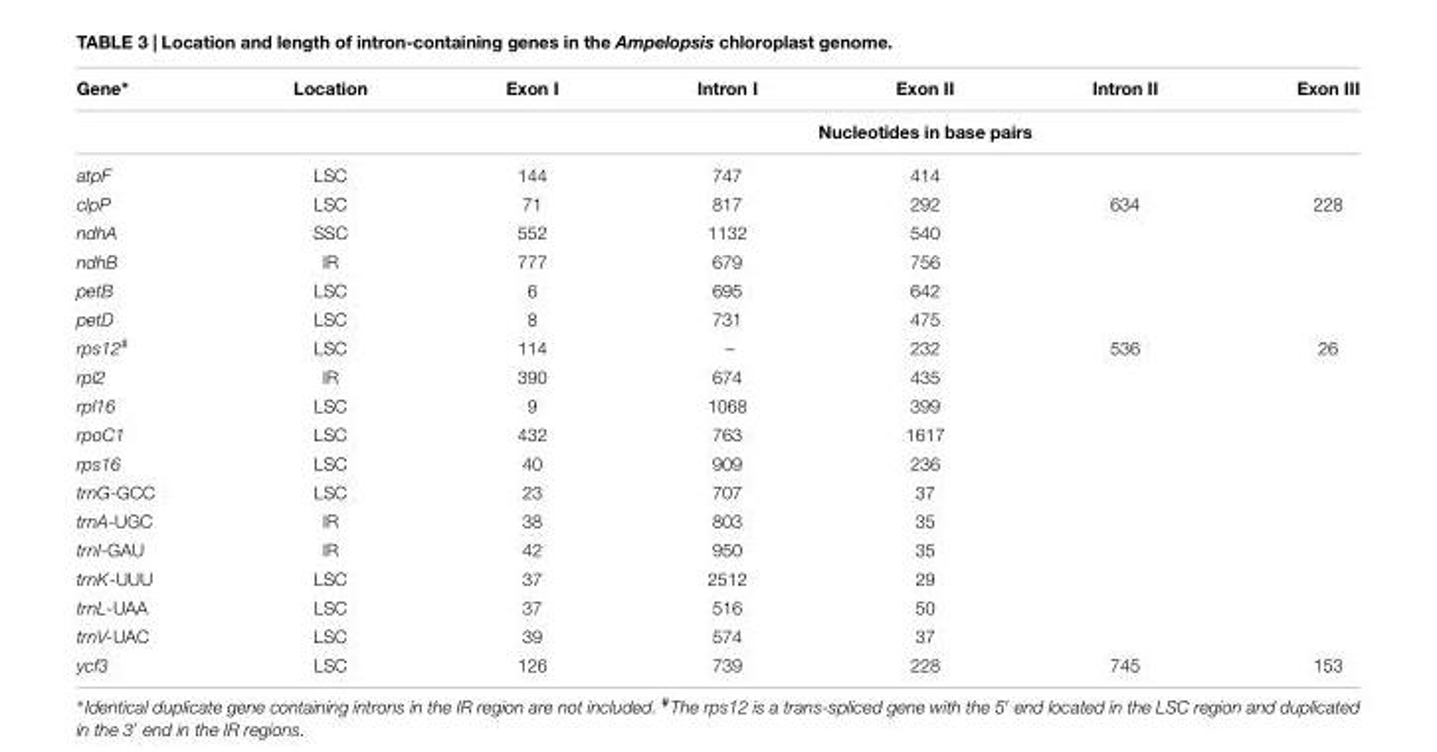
<table><thead><tr><td rowspan="2">Gene∗</td><td rowspan="2">Location</td><td>Exon I</td><td>Intron I</td><td>Exon II</td><td>Intron II</td><td>Exon III</td></tr><tr><td colspan="5">Nucleotides in base pairs</td></tr></thead><tbody><tr><td>atpF</td><td>LSC</td><td>144</td><td>747</td><td>414</td><td></td><td></td></tr><tr><td>clpP</td><td>LSC</td><td>71</td><td>817</td><td>292</td><td>634</td><td>228</td></tr><tr><td>ndhA</td><td>SSC</td><td>552</td><td>1132</td><td>540</td><td></td><td></td></tr><tr><td>ndhB</td><td>IR</td><td>777</td><td>679</td><td>756</td><td></td><td></td></tr><tr><td>petB</td><td>LSC</td><td>6</td><td>695</td><td>642</td><td></td><td></td></tr><tr><td>petD</td><td>LSC</td><td>8</td><td>731</td><td>475</td><td></td><td></td></tr><tr><td>rps12<sup>#</sup></td><td>LSC</td><td>114</td><td>–</td><td>232</td><td>536</td><td>26</td></tr><tr><td>rpl2</td><td>IR</td><td>390</td><td>674</td><td>435</td><td></td><td></td></tr><tr><td>rpl16</td><td>LSC</td><td>9</td><td>1068</td><td>399</td><td></td><td></td></tr><tr><td>rpoC1</td><td>LSC</td><td>432</td><td>763</td><td>1617</td><td></td><td></td></tr><tr><td>rps16</td><td>LSC</td><td>40</td><td>909</td><td>236</td><td></td><td></td></tr><tr><td>trnG-GCC</td><td>LSC</td><td>23</td><td>707</td><td>37</td><td></td><td></td></tr><tr><td>trnA-UGC</td><td>IR</td><td>38</td><td>803</td><td>35</td><td></td><td></td></tr><tr><td>trnI-GAU</td><td>IR</td><td>42</td><td>950</td><td>35</td><td></td><td></td></tr><tr><td>trnK-UUU</td><td>LSC</td><td>37</td><td>2512</td><td>29</td><td></td><td></td></tr><tr><td>trnL-UAA</td><td>LSC</td><td>37</td><td>516</td><td>50</td><td></td><td></td></tr><tr><td>trnV-UAC</td><td>LSC</td><td>39</td><td>574</td><td>37</td><td></td><td></td></tr><tr><td>ycf3</td><td>LSC</td><td>126</td><td>739</td><td>228</td><td>745</td><td>153</td></tr></tbody></table>